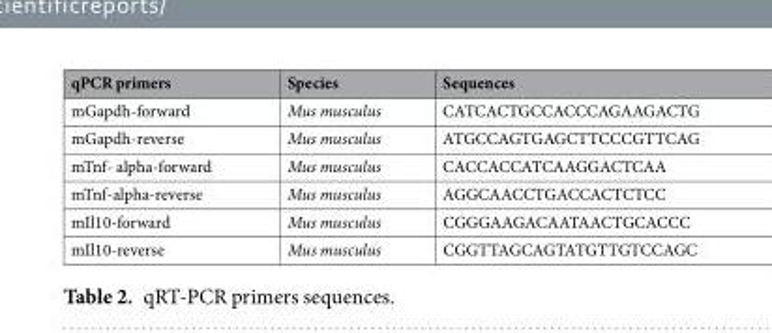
<table><thead><tr><td>qPCR primers</td><td>Species</td><td>Sequences</td></tr></thead><tbody><tr><td>mGapdh-forward</td><td>Mus musculus</td><td>CATCACTGCCACCCAGAAGACTG</td></tr><tr><td>mGapdh-reverse</td><td>Mus musculus</td><td>ATGCCAGTGAGCTTCCCGTTCAG</td></tr><tr><td>mTnf- alpha-forward</td><td>Mus musculus</td><td>CACCACCATCAAGGACTCAA</td></tr><tr><td>mTnf-alpha-reverse</td><td>Mus musculus</td><td>AGGCAACCTGACCACTCTCC</td></tr><tr><td>mIl10-forward</td><td>Mus musculus</td><td>CGGGAAGACAATAACTGCACCC</td></tr><tr><td>mIl10-reverse</td><td>Mus musculus</td><td>CGGTTAGCAGTATGTTGTCCAGC</td></tr></tbody></table>